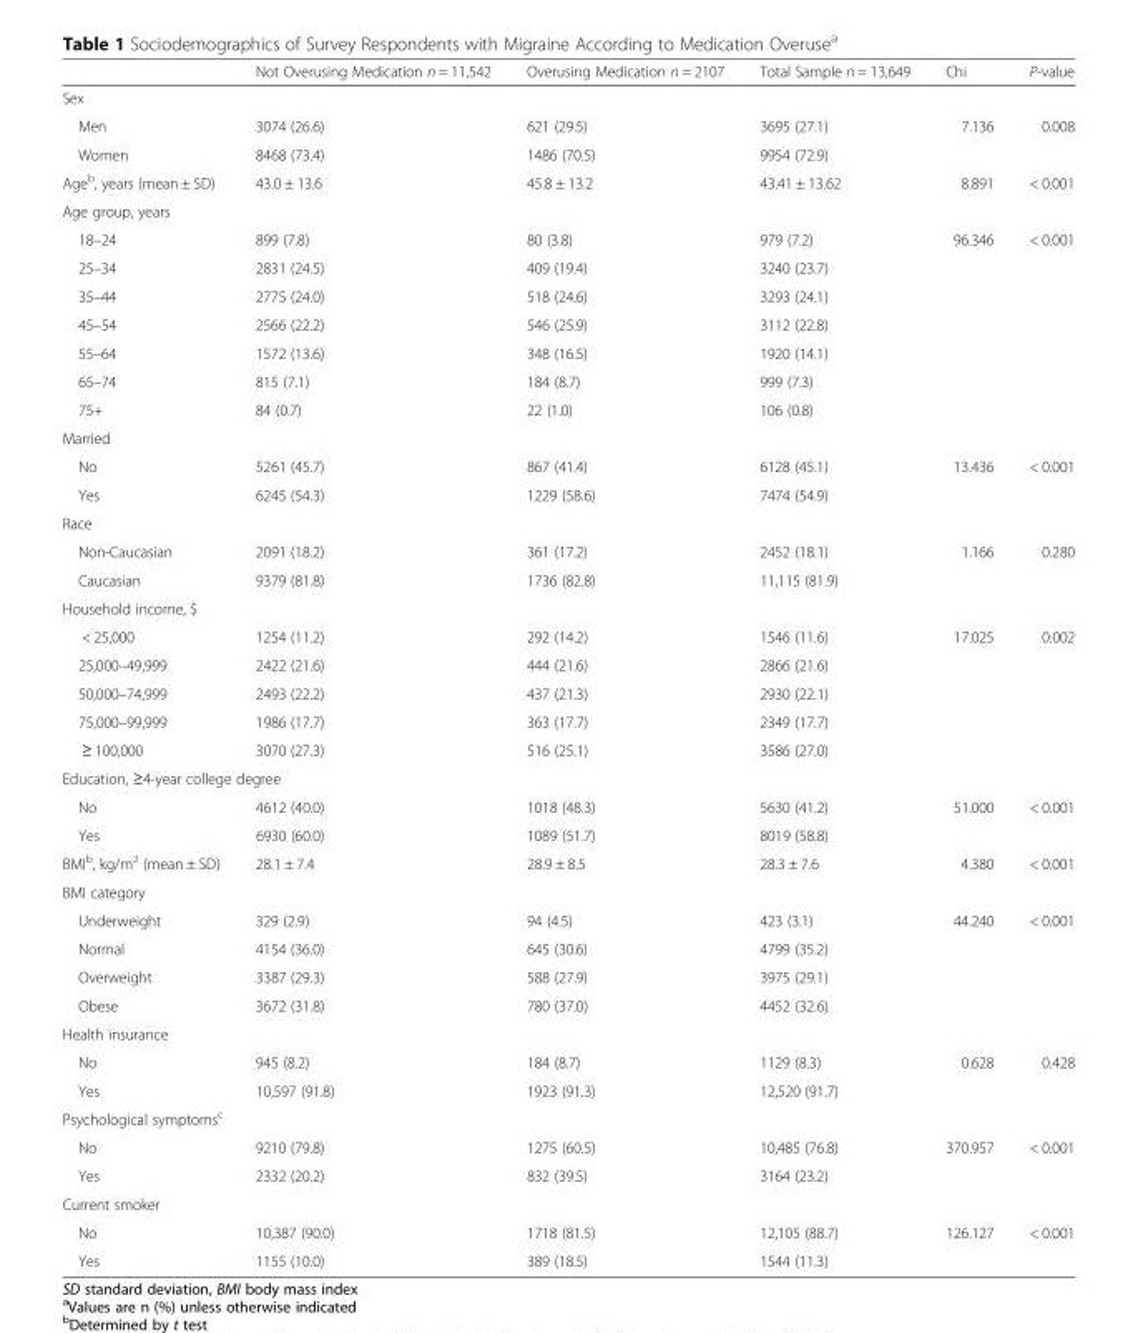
<table><thead><tr><td></td><td>Not Overusing Medication n = 11,542</td><td>Overusing Medication n = 2107</td><td>Total Sample n = 13,649</td><td>Chi</td><td>P-value</td></tr></thead><tbody><tr><td colspan="6">Sex</td></tr><tr><td>Men</td><td>3074 (26.6)</td><td>621 (29.5)</td><td>3695 (27.1)</td><td>7.136</td><td>0.008</td></tr><tr><td>Women</td><td>8468 (73.4)</td><td>1486 (70.5)</td><td>9954 (72.9)</td><td></td><td></td></tr><tr><td>Age<sup>b</sup>, years (mean ± SD)</td><td>43.0 ± 13.6</td><td>45.8 ± 13.2</td><td>43.41 ± 13.62</td><td>8.891</td><td>&lt; 0.001</td></tr><tr><td colspan="6">Age group, years</td></tr><tr><td>18–24</td><td>899 (7.8)</td><td>80 (3.8)</td><td>979 (7.2)</td><td>96.346</td><td>&lt; 0.001</td></tr><tr><td>25–34</td><td>2831 (24.5)</td><td>409 (19.4)</td><td>3240 (23.7)</td><td></td><td></td></tr><tr><td>35–44</td><td>2775 (24.0)</td><td>518 (24.6)</td><td>3293 (24.1)</td><td></td><td></td></tr><tr><td>45–54</td><td>2566 (22.2)</td><td>546 (25.9)</td><td>3112 (22.8)</td><td></td><td></td></tr><tr><td>55–64</td><td>1572 (13.6)</td><td>348 (16.5)</td><td>1920 (14.1)</td><td></td><td></td></tr><tr><td>65–74</td><td>815 (7.1)</td><td>184 (8.7)</td><td>999 (7.3)</td><td></td><td></td></tr><tr><td>75+</td><td>84 (0.7)</td><td>22 (1.0)</td><td>106 (0.8)</td><td></td><td></td></tr><tr><td colspan="6">Married</td></tr><tr><td>No</td><td>5261 (45.7)</td><td>867 (41.4)</td><td>6128 (45.1)</td><td>13.436</td><td>&lt; 0.001</td></tr><tr><td>Yes</td><td>6245 (54.3)</td><td>1229 (58.6)</td><td>7474 (54.9)</td><td></td><td></td></tr><tr><td colspan="6">Race</td></tr><tr><td>Non-Caucasian</td><td>2091 (18.2)</td><td>361 (17.2)</td><td>2452 (18.1)</td><td>1.166</td><td>0.280</td></tr><tr><td>Caucasian</td><td>9379 (81.8)</td><td>1736 (82.8)</td><td>11,115 (81.9)</td><td></td><td></td></tr><tr><td colspan="6">Household income, $</td></tr><tr><td>&lt; 25,000</td><td>1254 (11.2)</td><td>292 (14.2)</td><td>1546 (11.6)</td><td>17.025</td><td>0.002</td></tr><tr><td>25,000–49,999</td><td>2422 (21.6)</td><td>444 (21.6)</td><td>2866 (21.6)</td><td></td><td></td></tr><tr><td>50,000–74,999</td><td>2493 (22.2)</td><td>437 (21.3)</td><td>2930 (22.1)</td><td></td><td></td></tr><tr><td>75,000–99,999</td><td>1986 (17.7)</td><td>363 (17.7)</td><td>2349 (17.7)</td><td></td><td></td></tr><tr><td>≥ 100,000</td><td>3070 (27.3)</td><td>516 (25.1)</td><td>3586 (27.0)</td><td></td><td></td></tr><tr><td colspan="6">Education, ≥4-year college degree</td></tr><tr><td>No</td><td>4612 (40.0)</td><td>1018 (48.3)</td><td>5630 (41.2)</td><td>51.000</td><td>&lt; 0.001</td></tr><tr><td>Yes</td><td>6930 (60.0)</td><td>1089 (51.7)</td><td>8019 (58.8)</td><td></td><td></td></tr><tr><td>BMI<sup>b</sup>, kg/m<sup>2</sup> (mean ± SD)</td><td>28.1 ± 7.4</td><td>28.9 ± 8.5</td><td>28.3 ± 7.6</td><td>4.380</td><td>&lt; 0.001</td></tr><tr><td colspan="6">BMI category</td></tr><tr><td>Underweight</td><td>329 (2.9)</td><td>94 (4.5)</td><td>423 (3.1)</td><td>44.240</td><td>&lt; 0.001</td></tr><tr><td>Normal</td><td>4154 (36.0)</td><td>645 (30.6)</td><td>4799 (35.2)</td><td></td><td></td></tr><tr><td>Overweight</td><td>3387 (29.3)</td><td>588 (27.9)</td><td>3975 (29.1)</td><td></td><td></td></tr><tr><td>Obese</td><td>3672 (31.8)</td><td>780 (37.0)</td><td>4452 (32.6)</td><td></td><td></td></tr><tr><td colspan="6">Health insurance</td></tr><tr><td>No</td><td>945 (8.2)</td><td>184 (8.7)</td><td>1129 (8.3)</td><td>0.628</td><td>0.428</td></tr><tr><td>Yes</td><td>10,597 (91.8)</td><td>1923 (91.3)</td><td>12,520 (91.7)</td><td></td><td></td></tr><tr><td colspan="6">Psychological symptoms<sup>c</sup></td></tr><tr><td>No</td><td>9210 (79.8)</td><td>1275 (60.5)</td><td>10,485 (76.8)</td><td>370.957</td><td>&lt; 0.001</td></tr><tr><td>Yes</td><td>2332 (20.2)</td><td>832 (39.5)</td><td>3164 (23.2)</td><td></td><td></td></tr><tr><td colspan="6">Current smoker</td></tr><tr><td>No</td><td>10,387 (90.0)</td><td>1718 (81.5)</td><td>12,105 (88.7)</td><td>126.127</td><td>&lt; 0.001</td></tr><tr><td>Yes</td><td>1155 (10.0)</td><td>389 (18.5)</td><td>1544 (11.3)</td><td></td><td></td></tr></tbody></table>